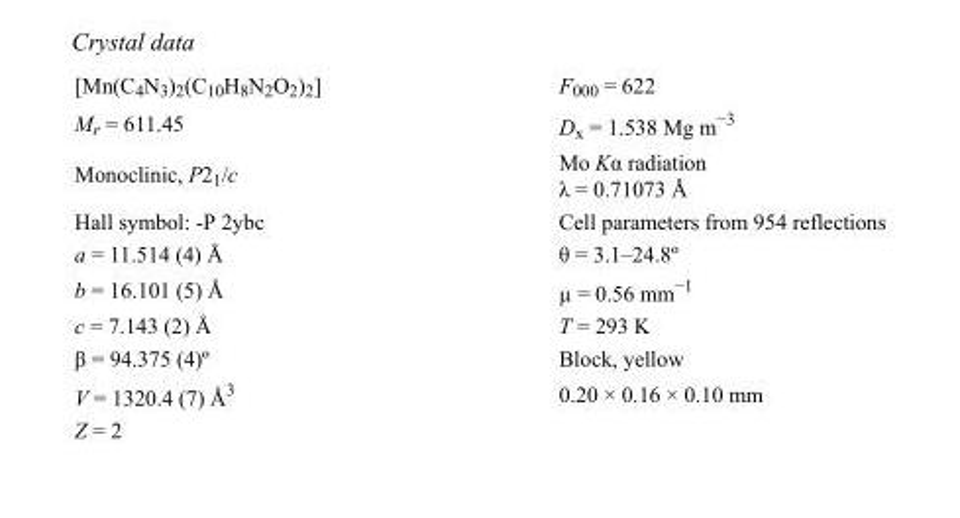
<table><tbody><tr><td>[Mn(C<sub>4</sub>N<sub>3</sub>)<sub>2</sub>(C<sub>10</sub>H<sub>8</sub>N<sub>2</sub>O<sub>2</sub>)<sub>2</sub>]</td><td>F000 = 622</td></tr><tr><td>M<sub>r</sub> = 611.45</td><td>D<sub>x</sub> = 1.538 Mg m<sup>−3</sup></td></tr><tr><td>Monoclinic, P2<sub>1</sub>/c</td><td>Mo Kα radiation λ = 0.71073 Å</td></tr><tr><td>Hall symbol: -P 2ybc</td><td>Cell parameters from 954 reflections</td></tr><tr><td>a = 11.514 (4) Å</td><td>θ = 3.1–24.8º</td></tr><tr><td>b = 16.101 (5) Å</td><td>µ = 0.56 mm<sup>−1</sup></td></tr><tr><td>c = 7.143 (2) Å</td><td>T = 293 K</td></tr><tr><td>β = 94.375 (4)º</td><td>Block, yellow</td></tr><tr><td>V = 1320.4 (7) Å<sup>3</sup></td><td>0.20 × 0.16 × 0.10 mm</td></tr><tr><td>Z = 2</td><td></td></tr></tbody></table>